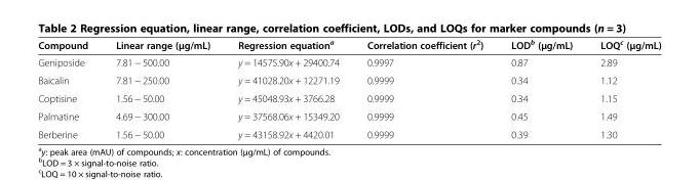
<table><thead><tr><td>Compound</td><td>Linear range (μg/mL)</td><td>Regression equation<sup>a</sup></td><td>Correlation coefficient (r<sup>2</sup>)</td><td>LOD<sup>b</sup> (μg/mL)</td><td>LOQ<sup>c</sup> (μg/mL)</td></tr></thead><tbody><tr><td>Geniposide</td><td>7.81 − 500.00</td><td>y = 14575.90x + 29400.74</td><td>0.9997</td><td>0.87</td><td>2.89</td></tr><tr><td>Baicalin</td><td>7.81 − 250.00</td><td>y = 41028.20x + 12271.19</td><td>0.9999</td><td>0.34</td><td>1.12</td></tr><tr><td>Coptisine</td><td>1.56 − 50.00</td><td>y = 45048.93x + 3766.28</td><td>0.9999</td><td>0.34</td><td>1.15</td></tr><tr><td>Palmatine</td><td>4.69 − 300.00</td><td>y = 37568.06x + 15349.20</td><td>0.9999</td><td>0.45</td><td>1.49</td></tr><tr><td>Berberine</td><td>1.56 − 50.00</td><td>y = 43158.92x + 4420.01</td><td>0.9999</td><td>0.39</td><td>1.30</td></tr></tbody></table>